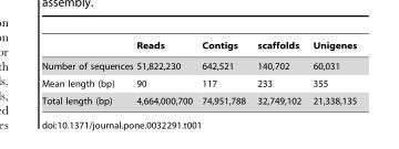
<table><thead><tr><td></td><td>Reads</td><td>Contigs</td><td>scaffolds</td><td>Unigenes</td></tr></thead><tbody><tr><td>Number of sequences</td><td>51,822,230</td><td>642,521</td><td>140,702</td><td>60,031</td></tr><tr><td>Mean length (bp)</td><td>90</td><td>117</td><td>233</td><td>355</td></tr><tr><td>Total length (bp)</td><td>4,664,000,700</td><td>74,951,788</td><td>32,749,102</td><td>21,338,135</td></tr></tbody></table>